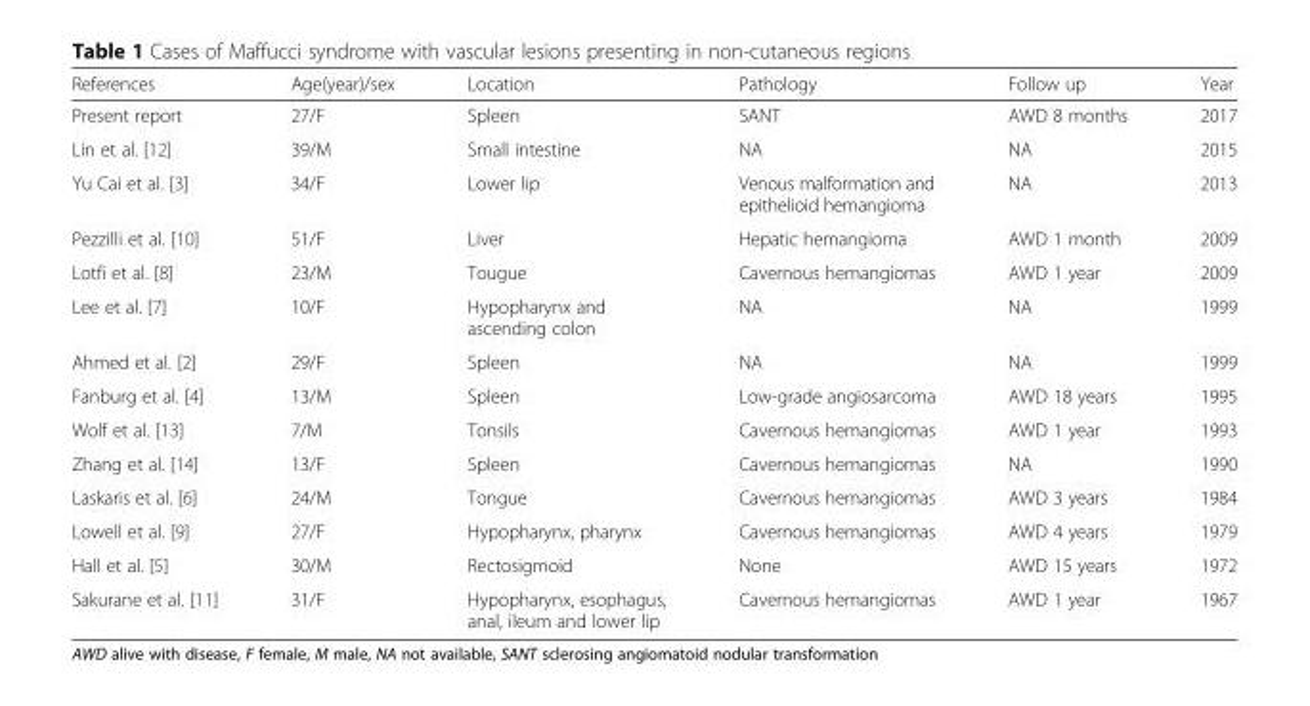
<table><thead><tr><td>References</td><td>Age(year)/sex</td><td>Location</td><td>Pathology</td><td>Follow up</td><td>Year</td></tr></thead><tbody><tr><td>Present report</td><td>27/F</td><td>Spleen</td><td>SANT</td><td>AWD 8 months</td><td>2017</td></tr><tr><td>Lin et al. [12]</td><td>39/M</td><td>Small intestine</td><td>NA</td><td>NA</td><td>2015</td></tr><tr><td>Yu Cai et al. [3]</td><td>34/F</td><td>Lower lip</td><td>Venous malformation and epithelioid hemangioma</td><td>NA</td><td>2013</td></tr><tr><td>Pezzilli et al. [10]</td><td>51/F</td><td>Liver</td><td>Hepatic hemangioma</td><td>AWD 1 month</td><td>2009</td></tr><tr><td>Lotfi et al. [8]</td><td>23/M</td><td>Tougue</td><td>Cavernous hemangiomas</td><td>AWD 1 year</td><td>2009</td></tr><tr><td>Lee et al. [7]</td><td>10/F</td><td>Hypopharynx and ascending colon</td><td>NA</td><td>NA</td><td>1999</td></tr><tr><td>Ahmed et al. [2]</td><td>29/F</td><td>Spleen</td><td>NA</td><td>NA</td><td>1999</td></tr><tr><td>Fanburg et al. [4]</td><td>13/M</td><td>Spleen</td><td>Low-grade angiosarcoma</td><td>AWD 18 years</td><td>1995</td></tr><tr><td>Wolf et al. [13]</td><td>7/M</td><td>Tonsils</td><td>Cavernous hemangiomas</td><td>AWD 1 year</td><td>1993</td></tr><tr><td>Zhang et al. [14]</td><td>13/F</td><td>Spleen</td><td>Cavernous hemangiomas</td><td>NA</td><td>1990</td></tr><tr><td>Laskaris et al. [6]</td><td>24/M</td><td>Tongue</td><td>Cavernous hemangiomas</td><td>AWD 3 years</td><td>1984</td></tr><tr><td>Lowell et al. [9]</td><td>27/F</td><td>Hypopharynx, pharynx</td><td>Cavernous hemangiomas</td><td>AWD 4 years</td><td>1979</td></tr><tr><td>Hall et al. [5]</td><td>30/M</td><td>Rectosigmoid</td><td>None</td><td>AWD 15 years</td><td>1972</td></tr><tr><td>Sakurane et al. [11]</td><td>31/F</td><td>Hypopharynx, esophagus, anal, ileum and lower lip</td><td>Cavernous hemangiomas</td><td>AWD 1 year</td><td>1967</td></tr></tbody></table>